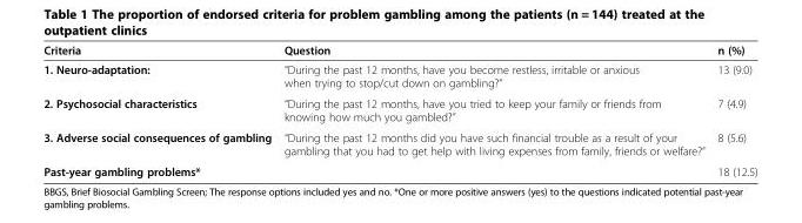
<table><thead><tr><td>Criteria</td><td>Question</td><td>n (%)</td></tr></thead><tbody><tr><td>1. Neuro-adaptation:</td><td>“During the past 12 months, have you become restless, irritable or anxious when trying to stop/cut down on gambling?”</td><td>13 (9.0)</td></tr><tr><td>2. Psychosocial characteristics</td><td>“During the past 12 months, have you tried to keep your family or friends from knowing how much you gambled?”</td><td>7 (4.9)</td></tr><tr><td>3. Adverse social consequences of gambling</td><td>“During the past 12 months did you have such financial trouble as a result of your gambling that you had to get help with living expenses from family, friends or welfare?”</td><td>8 (5.6)</td></tr><tr><td>Past-year gambling problems*</td><td></td><td>18 (12.5)</td></tr></tbody></table>